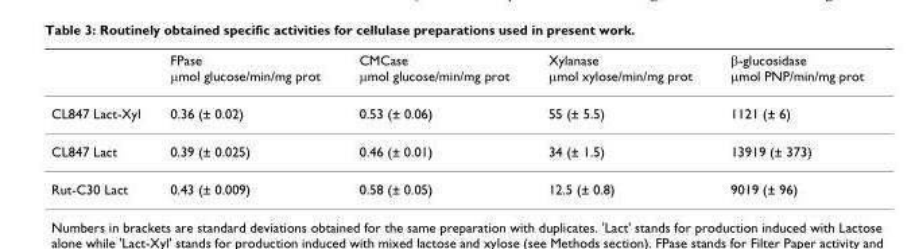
<table><thead><tr><td></td><td>FPase μmol glucose/min/mg prot</td><td>CMCase μmol glucose/min/mg prot</td><td>Xylanase μmol xylose/min/mg prot</td><td>β-glucosidase μmol PNP/min/mg prot</td></tr></thead><tbody><tr><td>CL847 Lact-Xyl</td><td>0.36 (± 0.02)</td><td>0.53 (± 0.06)</td><td>55 (± 5.5)</td><td>1121 (± 6)</td></tr><tr><td>CL847 Lact</td><td>0.39 (± 0.025)</td><td>0.46 (± 0.01)</td><td>34 (± 1.5)</td><td>13919 (± 373)</td></tr><tr><td>Rut-C30 Lact</td><td>0.43 (± 0.009)</td><td>0.58 (± 0.05)</td><td>12.5 (± 0.8)</td><td>9019 (± 96)</td></tr></tbody></table>